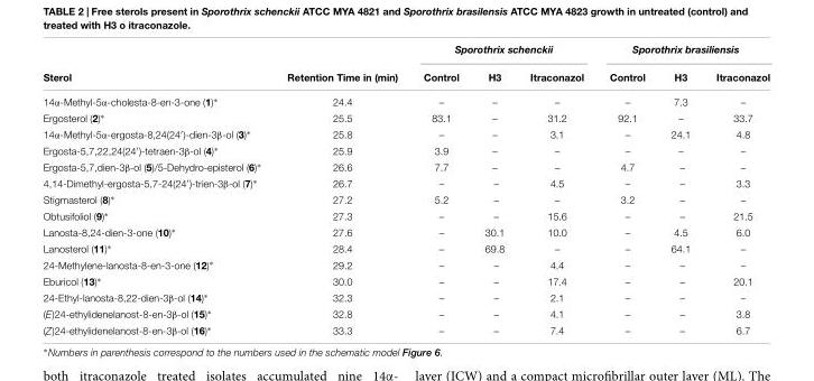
<table><thead><tr><td rowspan="2">Sterol</td><td rowspan="2">Retention Time in (min)</td><td colspan="3">Sporothrix schenckii</td><td colspan="3">Sporothrix brasiliensis</td></tr><tr><td>Control</td><td>H3</td><td>Itraconazol</td><td>Control</td><td>H3</td><td>Itraconazol</td></tr></thead><tbody><tr><td>14α-Methyl-5α-cholesta-8-en-3-one (1)∗</td><td>24.4</td><td>–</td><td>–</td><td>–</td><td>–</td><td>7.3</td><td>–</td></tr><tr><td>Ergosterol (2)∗</td><td>25.5</td><td>83.1</td><td>–</td><td>31.2</td><td>92.1</td><td>–</td><td>33.7</td></tr><tr><td>14α-Methyl-5α-ergosta-8,24(24′)-dien-3β-ol (3)∗</td><td>25.8</td><td>–</td><td>–</td><td>3.1</td><td>–</td><td>24.1</td><td>4.8</td></tr><tr><td>Ergosta-5,7,22,24(24′)-tetraen-3β-ol (4)∗</td><td>25.9</td><td>3.9</td><td>–</td><td>–</td><td>–</td><td>–</td><td>–</td></tr><tr><td>Ergosta-5,7,dien-3β-ol (5)/5-Dehydro-episterol (6)∗</td><td>26.6</td><td>7.7</td><td>–</td><td>–</td><td>4.7</td><td>–</td><td>–</td></tr><tr><td>4,14-Dimethyl-ergosta-5,7-24(24′)-trien-3β-ol (7)∗</td><td>26.7</td><td>–</td><td>–</td><td>4.5</td><td>–</td><td>–</td><td>3.3</td></tr><tr><td>Stigmasterol (8)∗</td><td>27.2</td><td>5.2</td><td>–</td><td>–</td><td>3.2</td><td>–</td><td>–</td></tr><tr><td>Obtusifoliol (9)∗</td><td>27.3</td><td>–</td><td>–</td><td>15.6</td><td>–</td><td>–</td><td>21.5</td></tr><tr><td>Lanosta-8,24-dien-3-one (10)∗</td><td>27.6</td><td>–</td><td>30.1</td><td>10.0</td><td>–</td><td>4.5</td><td>6.0</td></tr><tr><td>Lanosterol (11)∗</td><td>28.4</td><td>–</td><td>69.8</td><td>–</td><td>–</td><td>64.1</td><td>–</td></tr><tr><td>24-Methylene-lanosta-8-en-3-one (12)∗</td><td>29.2</td><td>–</td><td>–</td><td>4.4</td><td>–</td><td>–</td><td>–</td></tr><tr><td>Eburicol (13)∗</td><td>30.0</td><td>–</td><td>–</td><td>17.4</td><td>–</td><td>–</td><td>20.1</td></tr><tr><td>24-Ethyl-lanosta-8,22-dien-3β-ol (14)∗</td><td>32.3</td><td>–</td><td>–</td><td>2.1</td><td>–</td><td>–</td><td>–</td></tr><tr><td>(E)24-ethylidenelanost-8-en-3β-ol (15)∗</td><td>32.8</td><td>–</td><td>–</td><td>4.1</td><td>–</td><td>–</td><td>3.8</td></tr><tr><td>(Z)24-ethylidenelanost-8-en-3β-ol (16)∗</td><td>33.3</td><td>–</td><td>–</td><td>7.4</td><td>–</td><td>–</td><td>6.7</td></tr></tbody></table>